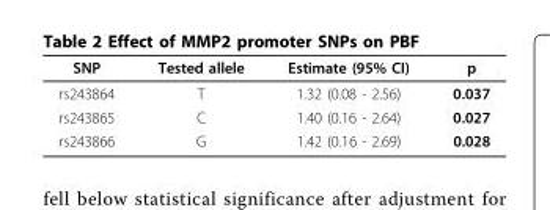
<table><thead><tr><td>SNP</td><td>Tested allele</td><td>Estimate (95% CI)</td><td>p</td></tr></thead><tbody><tr><td>rs243864</td><td>T</td><td>1.32 (0.08 - 2.56)</td><td>0.037</td></tr><tr><td>rs243865</td><td>C</td><td>1.40 (0.16 - 2.64)</td><td>0.027</td></tr><tr><td>rs243866</td><td>G</td><td>1.42 (0.16 - 2.69)</td><td>0.028</td></tr></tbody></table>